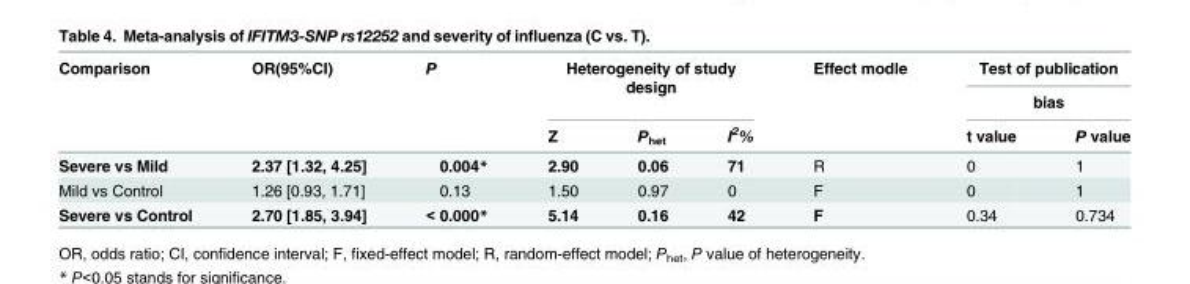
<table><thead><tr><td rowspan="3">Comparison</td><td rowspan="3">OR(95%CI)</td><td rowspan="3">P</td><td rowspan="2" colspan="3">Heterogeneity of study design</td><td rowspan="3">Effect modle</td><td rowspan="2" colspan="2">Test of publication bias</td></tr><tr></tr><tr><td>Z</td><td>P<sub>het</sub></td><td>I<sup>2</sup>%</td><td>t value</td><td>P value</td></tr></thead><tbody><tr><td>Severe vs Mild</td><td>2.37 [1.32, 4.25]</td><td>0.004*</td><td>2.90</td><td>0.06</td><td>71</td><td>R</td><td>0</td><td>1</td></tr><tr><td>Mild vs Control</td><td>1.26 [0.93, 1.71]</td><td>0.13</td><td>1.50</td><td>0.97</td><td>0</td><td>F</td><td>0</td><td>1</td></tr><tr><td>Severe vs Control</td><td>2.70 [1.85, 3.94]</td><td>&lt; 0.000*</td><td>5.14</td><td>0.16</td><td>42</td><td>F</td><td>0.34</td><td>0.734</td></tr></tbody></table>